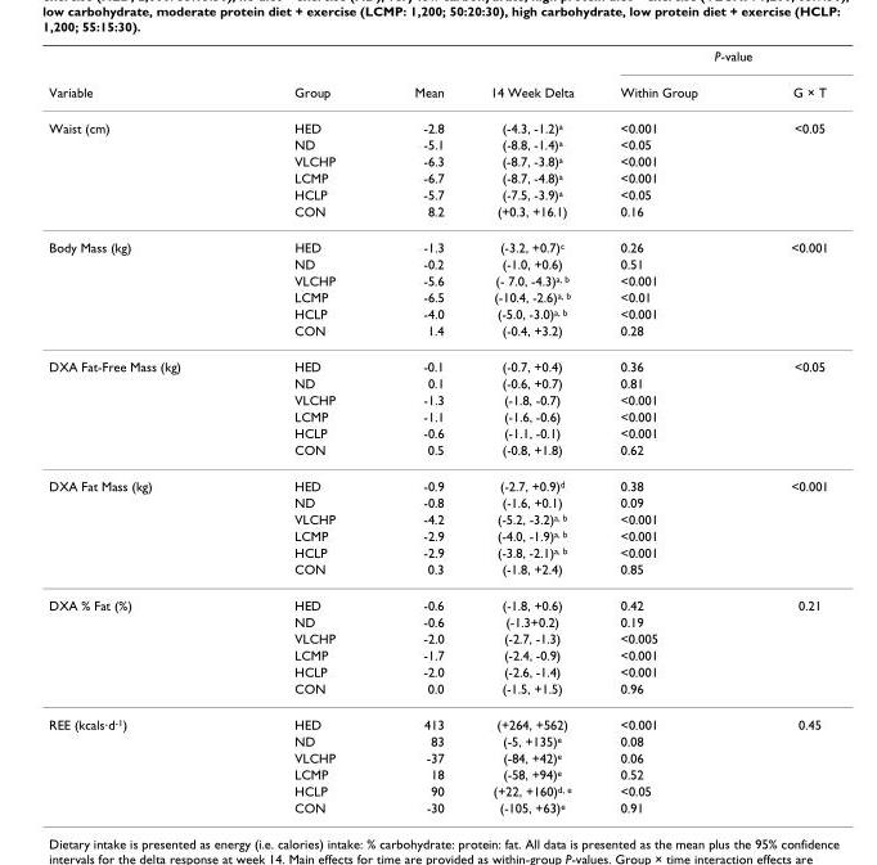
<table><thead><tr><td rowspan="2">Variable</td><td rowspan="2">Group</td><td rowspan="2">Mean</td><td rowspan="2">14 Week Delta</td><td colspan="2">P-value</td></tr><tr><td>Within Group</td><td>G × T</td></tr></thead><tbody><tr><td rowspan="6">Waist (cm)</td><td>HED</td><td>-2.8</td><td>(-4.3, -1.2)<sup>a</sup></td><td>&lt;0.001</td><td>&lt;0.05</td></tr><tr><td>ND</td><td>-5.1</td><td>(-8.8, -1.4)<sup>a</sup></td><td>&lt;0.05</td><td></td></tr><tr><td>VLCHP</td><td>-6.3</td><td>(-8.7, -3.8)<sup>a</sup></td><td>&lt;0.001</td><td></td></tr><tr><td>LCMP</td><td>-6.7</td><td>(-8.7, -4.8)<sup>a</sup></td><td>&lt;0.001</td><td></td></tr><tr><td>HCLP</td><td>-5.7</td><td>(-7.5, -3.9)<sup>a</sup></td><td>&lt;0.05</td><td></td></tr><tr><td>CON</td><td>8.2</td><td>(+0.3, +16.1)</td><td>0.16</td><td></td></tr><tr><td rowspan="6">Body Mass (kg)</td><td>HED</td><td>-1.3</td><td>(-3.2, +0.7)<sup>c</sup></td><td>0.26</td><td>&lt;0.001</td></tr><tr><td>ND</td><td>-0.2</td><td>(-1.0, +0.6)</td><td>0.51</td><td></td></tr><tr><td>VLCHP</td><td>-5.6</td><td>(- 7.0, -4.3)<sup>a, b</sup></td><td>&lt;0.001</td><td></td></tr><tr><td>LCMP</td><td>-6.5</td><td>(-10.4, -2.6)<sup>a, b</sup></td><td>&lt;0.01</td><td></td></tr><tr><td>HCLP</td><td>-4.0</td><td>(-5.0, -3.0)<sup>a, b</sup></td><td>&lt;0.001</td><td></td></tr><tr><td>CON</td><td>1.4</td><td>(-0.4, +3.2)</td><td>0.28</td><td></td></tr><tr><td rowspan="6">DXA Fat-Free Mass (kg)</td><td>HED</td><td>-0.1</td><td>(-0.7, +0.4)</td><td>0.36</td><td>&lt;0.05</td></tr><tr><td>ND</td><td>0.1</td><td>(-0.6, +0.7)</td><td>0.81</td><td></td></tr><tr><td>VLCHP</td><td>-1.3</td><td>(-1.8, -0.7)</td><td>&lt;0.001</td><td></td></tr><tr><td>LCMP</td><td>-1.1</td><td>(-1.6, -0.6)</td><td>&lt;0.001</td><td></td></tr><tr><td>HCLP</td><td>-0.6</td><td>(-1.1, -0.1)</td><td>&lt;0.001</td><td></td></tr><tr><td>CON</td><td>0.5</td><td>(-0.8, +1.8)</td><td>0.62</td><td></td></tr><tr><td rowspan="6">DXA Fat Mass (kg)</td><td>HED</td><td>-0.9</td><td>(-2.7, +0.9)<sup>d</sup></td><td>0.38</td><td>&lt;0.001</td></tr><tr><td>ND</td><td>-0.8</td><td>(-1.6, +0.1)</td><td>0.09</td><td></td></tr><tr><td>VLCHP</td><td>-4.2</td><td>(-5.2, -3.2)<sup>a, b</sup></td><td>&lt;0.001</td><td></td></tr><tr><td>LCMP</td><td>-2.9</td><td>(-4.0, -1.9)<sup>a, b</sup></td><td>&lt;0.001</td><td></td></tr><tr><td>HCLP</td><td>-2.9</td><td>(-3.8, -2.1)<sup>a, b</sup></td><td>&lt;0.001</td><td></td></tr><tr><td>CON</td><td>0.3</td><td>(-1.8, +2.4)</td><td>0.85</td><td></td></tr><tr><td rowspan="6">DXA % Fat (%)</td><td>HED</td><td>-0.6</td><td>(-1.8, +0.6)</td><td>0.42</td><td>0.21</td></tr><tr><td>ND</td><td>-0.6</td><td>(-1.3+0.2)</td><td>0.19</td><td></td></tr><tr><td>VLCHP</td><td>-2.0</td><td>(-2.7, -1.3)</td><td>&lt;0.005</td><td></td></tr><tr><td>LCMP</td><td>-1.7</td><td>(-2.4, -0.9)</td><td>&lt;0.001</td><td></td></tr><tr><td>HCLP</td><td>-2.0</td><td>(-2.6, -1.4)</td><td>&lt;0.001</td><td></td></tr><tr><td>CON</td><td>0.0</td><td>(-1.5, +1.5)</td><td>0.96</td><td></td></tr><tr><td rowspan="6">REE (kcals·d<sup>-1</sup>)</td><td>HED</td><td>413</td><td>(+264, +562)</td><td>&lt;0.001</td><td>0.45</td></tr><tr><td>ND</td><td>83</td><td>(-5, +135)<sup>e</sup></td><td>0.08</td><td></td></tr><tr><td>VLCHP</td><td>-37</td><td>(-84, +42)<sup>e</sup></td><td>0.06</td><td></td></tr><tr><td>LCMP</td><td>18</td><td>(-58, +94)<sup>e</sup></td><td>0.52</td><td></td></tr><tr><td>HCLP</td><td>90</td><td>(+22, +160)<sup>d, e</sup></td><td>&lt;0.05</td><td></td></tr><tr><td>CON</td><td>-30</td><td>(-105, +63)<sup>e</sup></td><td>0.91</td><td></td></tr></tbody></table>